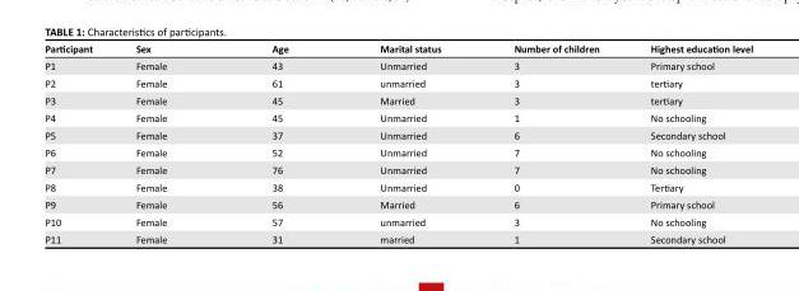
<table><thead><tr><td>Participant</td><td>Sex</td><td>Age</td><td>Marital status</td><td>Number of children</td><td>Highest education level</td></tr></thead><tbody><tr><td>P1</td><td>Female</td><td>43</td><td>Unmarried</td><td>3</td><td>Primary school</td></tr><tr><td>P2</td><td>Female</td><td>61</td><td>unmarried</td><td>3</td><td>tertiary</td></tr><tr><td>P3</td><td>Female</td><td>45</td><td>Married</td><td>3</td><td>tertiary</td></tr><tr><td>P4</td><td>Female</td><td>45</td><td>Unmarried</td><td>1</td><td>No schooling</td></tr><tr><td>P5</td><td>Female</td><td>37</td><td>Unmarried</td><td>6</td><td>Secondary school</td></tr><tr><td>P6</td><td>Female</td><td>52</td><td>Unmarried</td><td>7</td><td>No schooling</td></tr><tr><td>P7</td><td>Female</td><td>76</td><td>Unmarried</td><td>7</td><td>No schooling</td></tr><tr><td>P8</td><td>Female</td><td>38</td><td>Unmarried</td><td>0</td><td>Tertiary</td></tr><tr><td>P9</td><td>Female</td><td>56</td><td>Married</td><td>6</td><td>Primary school</td></tr><tr><td>P10</td><td>Female</td><td>57</td><td>unmarried</td><td>3</td><td>No schooling</td></tr><tr><td>P11</td><td>Female</td><td>31</td><td>married</td><td>1</td><td>Secondary school</td></tr></tbody></table>